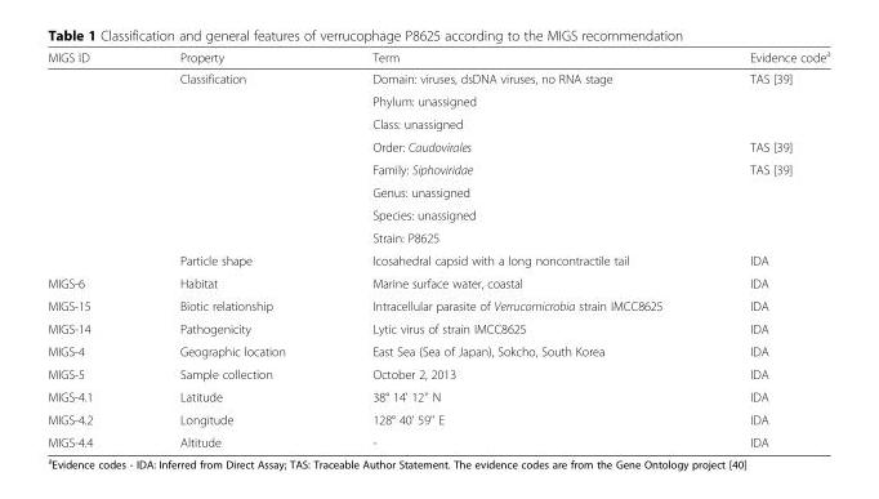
<table><thead><tr><td>MIGS ID</td><td>Property</td><td>Term</td><td>Evidence code<sup>a</sup></td></tr></thead><tbody><tr><td></td><td>Classification</td><td>Domain: viruses, dsDNA viruses, no RNA stage</td><td>TAS [39]</td></tr><tr><td></td><td></td><td>Phylum: unassigned</td><td></td></tr><tr><td></td><td></td><td>Class: unassigned</td><td></td></tr><tr><td></td><td></td><td>Order: Caudovirales</td><td>TAS [39]</td></tr><tr><td></td><td></td><td>Family: Siphoviridae</td><td>TAS [39]</td></tr><tr><td></td><td></td><td>Genus: unassigned</td><td></td></tr><tr><td></td><td></td><td>Species: unassigned</td><td></td></tr><tr><td></td><td></td><td>Strain: P8625</td><td></td></tr><tr><td></td><td>Particle shape</td><td>Icosahedral capsid with a long noncontractile tail</td><td>IDA</td></tr><tr><td>MIGS-6</td><td>Habitat</td><td>Marine surface water, coastal</td><td>IDA</td></tr><tr><td>MIGS-15</td><td>Biotic relationship</td><td>Intracellular parasite of Verrucomicrobia strain IMCC8625</td><td>IDA</td></tr><tr><td>MIGS-14</td><td>Pathogenicity</td><td>Lytic virus of strain IMCC8625</td><td>IDA</td></tr><tr><td>MIGS-4</td><td>Geographic location</td><td>East Sea (Sea of Japan), Sokcho, South Korea</td><td>IDA</td></tr><tr><td>MIGS-5</td><td>Sample collection</td><td>October 2, 2013</td><td>IDA</td></tr><tr><td>MIGS-4.1</td><td>Latitude</td><td>38° 14&#x27; 12&#x27;&#x27; N</td><td>IDA</td></tr><tr><td>MIGS-4.2</td><td>Longitude</td><td>128° 40&#x27; 59&#x27;&#x27; E</td><td>IDA</td></tr><tr><td>MIGS-4.4</td><td>Altitude</td><td>-</td><td>IDA</td></tr></tbody></table>